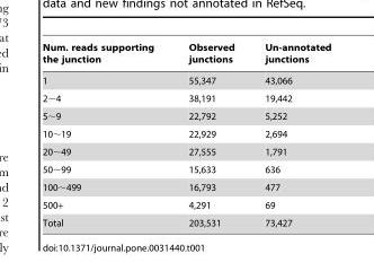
<table><thead><tr><td>Num. reads supporting the junction</td><td>Observed junctions</td><td>Un-annotated junctions</td></tr></thead><tbody><tr><td>1</td><td>55,347</td><td>43,066</td></tr><tr><td>2∼4</td><td>38,191</td><td>19,442</td></tr><tr><td>5∼9</td><td>22,792</td><td>5,252</td></tr><tr><td>10∼19</td><td>22,929</td><td>2,694</td></tr><tr><td>20∼49</td><td>27,555</td><td>1,791</td></tr><tr><td>50∼99</td><td>15,633</td><td>636</td></tr><tr><td>100∼499</td><td>16,793</td><td>477</td></tr><tr><td>500+</td><td>4,291</td><td>69</td></tr><tr><td>Total</td><td>203,531</td><td>73,427</td></tr></tbody></table>